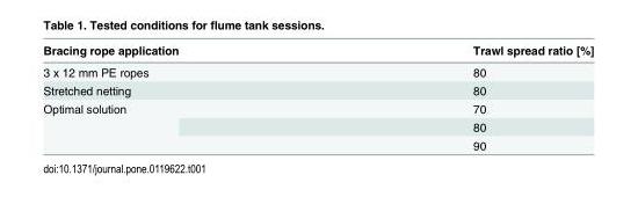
<table><thead><tr><td>Bracing rope application</td><td>Trawl spread ratio [%]</td></tr></thead><tbody><tr><td>3 x 12 mm PE ropes</td><td>80</td></tr><tr><td>Stretched netting</td><td>80</td></tr><tr><td rowspan="3">Optimal solution</td><td>70</td></tr><tr><td>80</td></tr><tr><td>90</td></tr></tbody></table>